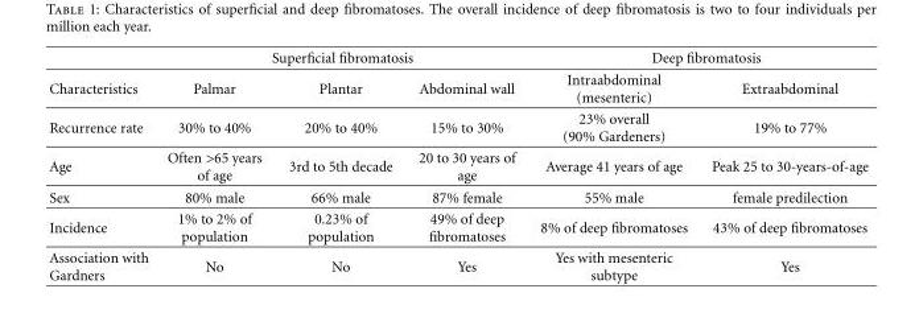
<table><thead><tr><td rowspan="2">Characteristics</td><td colspan="3">Superficial fibromatosis</td><td colspan="2">Deep fibromatosis</td></tr><tr><td>Palmar</td><td>Plantar</td><td>Abdominal wall</td><td>Intraabdominal (mesenteric)</td><td>Extraabdominal</td></tr></thead><tbody><tr><td>Recurrence rate</td><td>30% to 40%</td><td>20% to 40%</td><td>15% to 30%</td><td>23% overall (90% Gardeners)</td><td>19% to 77%</td></tr><tr><td>Age</td><td>Often &gt;65 years of age</td><td>3rd to 5th decade</td><td>20 to 30 years of age</td><td>Average 41 years of age</td><td>Peak 25 to 30-years-of-age</td></tr><tr><td>Sex</td><td>80% male</td><td>66% male</td><td>87% female</td><td>55% male</td><td>female predilection</td></tr><tr><td>Incidence</td><td>1% to 2% of population</td><td>0.23% of population</td><td>49% of deep fibromatoses</td><td>8% of deep fibromatoses</td><td>43% of deep fibromatoses</td></tr><tr><td>Association with Gardners</td><td>No</td><td>No</td><td>Yes</td><td>Yes with mesenteric subtype</td><td>Yes</td></tr></tbody></table>